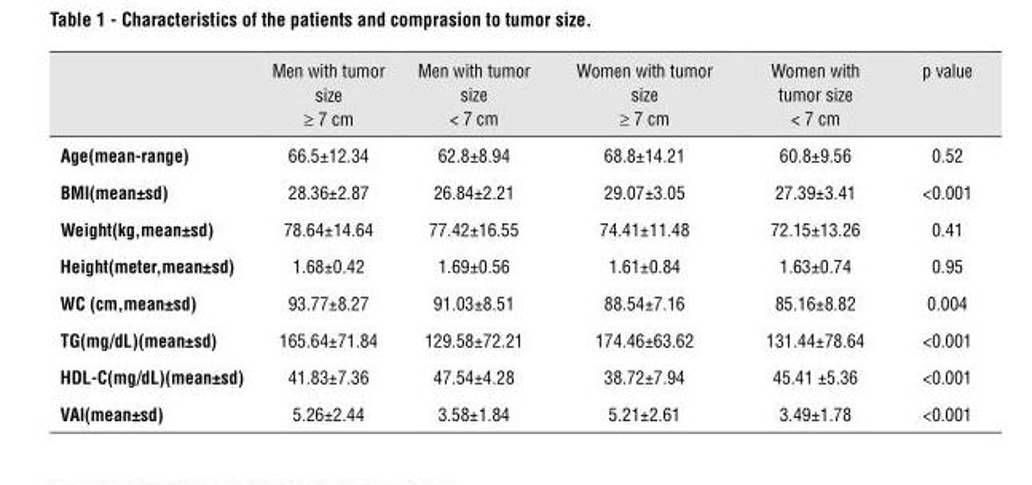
<table><thead><tr><td></td><td>Men with tumor size ≥ 7 cm</td><td>Men with tumor size &lt; 7 cm</td><td>Women with tumor size ≥ 7 cm</td><td>Women with tumor size &lt; 7 cm</td><td>p value</td></tr></thead><tbody><tr><td>Age(mean-range)</td><td>66.5±12.34</td><td>62.8±8.94</td><td>68.8±14.21</td><td>60.8±9.56</td><td>0.52</td></tr><tr><td>BMI(mean±sd)</td><td>28.36±2.87</td><td>26.84±2.21</td><td>29.07±3.05</td><td>27.39±3.41</td><td>&lt;0.001</td></tr><tr><td>Weight(kg,mean±sd)</td><td>78.64±14.64</td><td>77.42±16.55</td><td>74.41±11.48</td><td>72.15±13.26</td><td>0.41</td></tr><tr><td>Height(meter,mean±sd)</td><td>1.68±0.42</td><td>1.69±0.56</td><td>1.61±0.84</td><td>1.63±0.74</td><td>0.95</td></tr><tr><td>WC (cm,mean±sd)</td><td>93.77±8.27</td><td>91.03±8.51</td><td>88.54±7.16</td><td>85.16±8.82</td><td>0.004</td></tr><tr><td>TG(mg/dL)(mean±sd)</td><td>165.64±71.84</td><td>129.58±72.21</td><td>174.46±63.62</td><td>131.44±78.64</td><td>&lt;0.001</td></tr><tr><td>HDL-C(mg/dL)(mean±sd)</td><td>41.83±7.36</td><td>47.54±4.28</td><td>38.72±7.94</td><td>45.41 ±5.36</td><td>&lt;0.001</td></tr><tr><td>VAI(mean±sd)</td><td>5.26±2.44</td><td>3.58±1.84</td><td>5.21±2.61</td><td>3.49±1.78</td><td>&lt;0.001</td></tr></tbody></table>